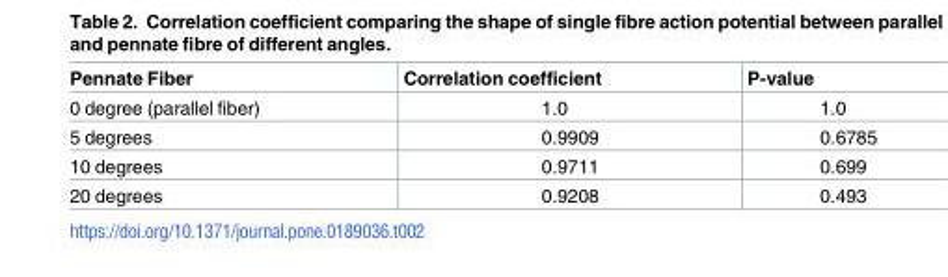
<table><thead><tr><td>Pennate Fiber</td><td>Correlation coefficient</td><td>P-value</td></tr></thead><tbody><tr><td>0 degree (parallel fiber)</td><td>1.0</td><td>1.0</td></tr><tr><td>5 degrees</td><td>0.9909</td><td>0.6785</td></tr><tr><td>10 degrees</td><td>0.9711</td><td>0.699</td></tr><tr><td>20 degrees</td><td>0.9208</td><td>0.493</td></tr></tbody></table>